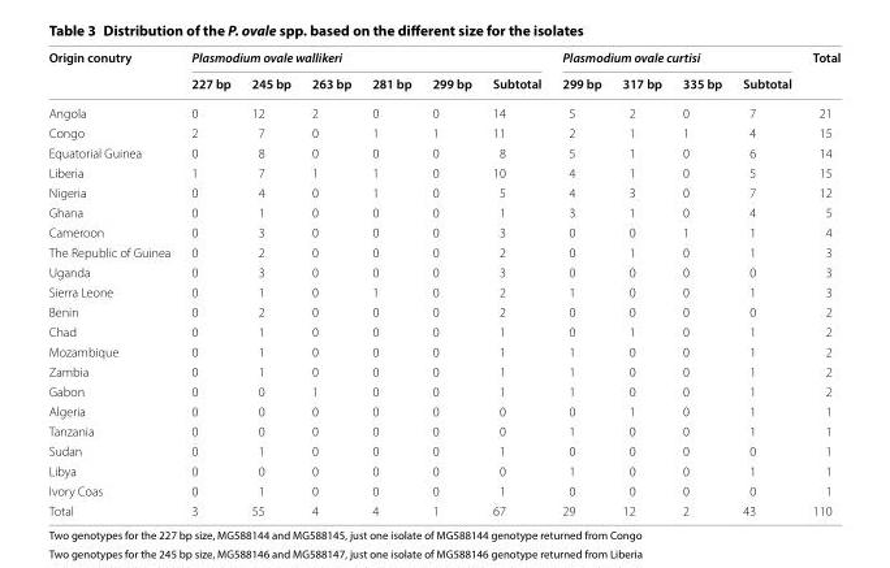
<table><thead><tr><td rowspan="2">Origin conutry</td><td colspan="6">Plasmodium ovale wallikeri</td><td colspan="4">Plasmodium ovale curtisi</td><td rowspan="2">Total</td></tr><tr><td>227 bp</td><td>245 bp</td><td>263 bp</td><td>281 bp</td><td>299 bp</td><td>Subtotal</td><td>299 bp</td><td>317 bp</td><td>335 bp</td><td>Subtotal</td></tr></thead><tbody><tr><td>Angola</td><td>0</td><td>12</td><td>2</td><td>0</td><td>0</td><td>14</td><td>5</td><td>2</td><td>0</td><td>7</td><td>21</td></tr><tr><td>Congo</td><td>2</td><td>7</td><td>0</td><td>1</td><td>1</td><td>11</td><td>2</td><td>1</td><td>1</td><td>4</td><td>15</td></tr><tr><td>Equatorial Guinea</td><td>0</td><td>8</td><td>0</td><td>0</td><td>0</td><td>8</td><td>5</td><td>1</td><td>0</td><td>6</td><td>14</td></tr><tr><td>Liberia</td><td>1</td><td>7</td><td>1</td><td>1</td><td>0</td><td>10</td><td>4</td><td>1</td><td>0</td><td>5</td><td>15</td></tr><tr><td>Nigeria</td><td>0</td><td>4</td><td>0</td><td>1</td><td>0</td><td>5</td><td>4</td><td>3</td><td>0</td><td>7</td><td>12</td></tr><tr><td>Ghana</td><td>0</td><td>1</td><td>0</td><td>0</td><td>0</td><td>1</td><td>3</td><td>1</td><td>0</td><td>4</td><td>5</td></tr><tr><td>Cameroon</td><td>0</td><td>3</td><td>0</td><td>0</td><td>0</td><td>3</td><td>0</td><td>0</td><td>1</td><td>1</td><td>4</td></tr><tr><td>The Republic of Guinea</td><td>0</td><td>2</td><td>0</td><td>0</td><td>0</td><td>2</td><td>0</td><td>1</td><td>0</td><td>1</td><td>3</td></tr><tr><td>Uganda</td><td>0</td><td>3</td><td>0</td><td>0</td><td>0</td><td>3</td><td>0</td><td>0</td><td>0</td><td>0</td><td>3</td></tr><tr><td>Sierra Leone</td><td>0</td><td>1</td><td>0</td><td>1</td><td>0</td><td>2</td><td>1</td><td>0</td><td>0</td><td>1</td><td>3</td></tr><tr><td>Benin</td><td>0</td><td>2</td><td>0</td><td>0</td><td>0</td><td>2</td><td>0</td><td>0</td><td>0</td><td>0</td><td>2</td></tr><tr><td>Chad</td><td>0</td><td>1</td><td>0</td><td>0</td><td>0</td><td>1</td><td>0</td><td>1</td><td>0</td><td>1</td><td>2</td></tr><tr><td>Mozambique</td><td>0</td><td>1</td><td>0</td><td>0</td><td>0</td><td>1</td><td>1</td><td>0</td><td>0</td><td>1</td><td>2</td></tr><tr><td>Zambia</td><td>0</td><td>1</td><td>0</td><td>0</td><td>0</td><td>1</td><td>1</td><td>0</td><td>0</td><td>1</td><td>2</td></tr><tr><td>Gabon</td><td>0</td><td>0</td><td>1</td><td>0</td><td>0</td><td>1</td><td>1</td><td>0</td><td>0</td><td>1</td><td>2</td></tr><tr><td>Algeria</td><td>0</td><td>0</td><td>0</td><td>0</td><td>0</td><td>0</td><td>0</td><td>1</td><td>0</td><td>1</td><td>1</td></tr><tr><td>Tanzania</td><td>0</td><td>0</td><td>0</td><td>0</td><td>0</td><td>0</td><td>1</td><td>0</td><td>0</td><td>1</td><td>1</td></tr><tr><td>Sudan</td><td>0</td><td>1</td><td>0</td><td>0</td><td>0</td><td>1</td><td>0</td><td>0</td><td>0</td><td>0</td><td>1</td></tr><tr><td>Libya</td><td>0</td><td>0</td><td>0</td><td>0</td><td>0</td><td>0</td><td>1</td><td>0</td><td>0</td><td>1</td><td>1</td></tr><tr><td>Ivory Coas</td><td>0</td><td>1</td><td>0</td><td>0</td><td>0</td><td>1</td><td>0</td><td>0</td><td>0</td><td>0</td><td>1</td></tr><tr><td>Total</td><td>3</td><td>55</td><td>4</td><td>4</td><td>1</td><td>67</td><td>29</td><td>12</td><td>2</td><td>43</td><td>110</td></tr></tbody></table>